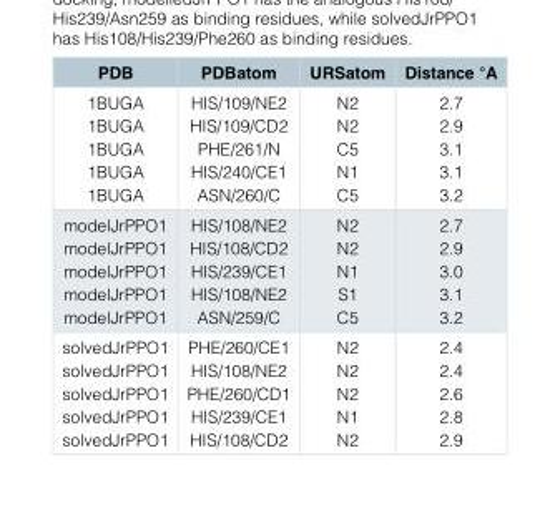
<table><thead><tr><td>PDB</td><td>PDBatom</td><td>URSatom</td><td>Distance °A</td></tr></thead><tbody><tr><td>1BUGA 1BUGA 1BUGA 1BUGA 1BUGA</td><td>HIS/109/NE2 HIS/109/CD2 PHE/261/N HIS/240/CE1 ASN/260/C</td><td>N2 N2 C5 N1 C5</td><td>2.7 2.9 3.1 3.1 3.2</td></tr><tr><td>modelJrPPO1 modelJrPPO1 modelJrPPO1 modelJrPPO1 modelJrPPO1</td><td>HIS/108/NE2 HIS/108/CD2 HIS/239/CE1 HIS/108/NE2 ASN/259/C</td><td>N2 N2 N1 S1 C5</td><td>2.7 2.9 3.0 3.1 3.2</td></tr><tr><td>solvedJrPPO1 solvedJrPPO1 solvedJrPPO1 solvedJrPPO1 solvedJrPPO1</td><td>PHE/260/CE1 HIS/108/NE2 PHE/260/CD1 HIS/239/CE1 HIS/108/CD2</td><td>N2 N2 N2 N1 N2</td><td>2.4 2.4 2.6 2.8 2.9</td></tr></tbody></table>